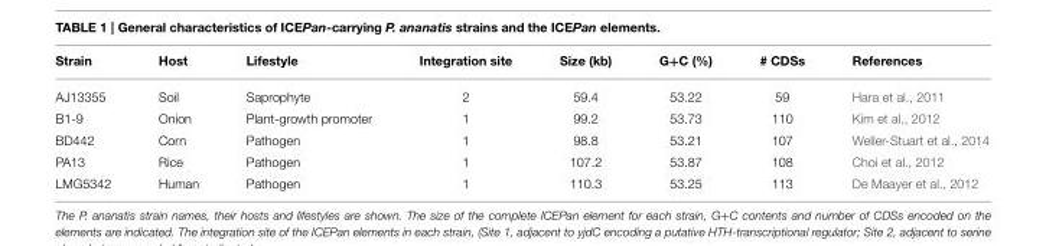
<table><thead><tr><td>Strain</td><td>Host</td><td>Lifestyle</td><td>Integration site</td><td>Size (kb)</td><td>G+C (%)</td><td># CDSs</td><td>References</td></tr></thead><tbody><tr><td>AJ13355</td><td>Soil</td><td>Saprophyte</td><td>2</td><td>59.4</td><td>53.22</td><td>59</td><td>Hara et al., 2011</td></tr><tr><td>B1-9</td><td>Onion</td><td>Plant-growth promoter</td><td>1</td><td>99.2</td><td>53.73</td><td>110</td><td>Kim et al., 2012</td></tr><tr><td>BD442</td><td>Corn</td><td>Pathogen</td><td>1</td><td>98.8</td><td>53.21</td><td>107</td><td>Weller-Stuart et al., 2014</td></tr><tr><td>PA13</td><td>Rice</td><td>Pathogen</td><td>1</td><td>107.2</td><td>53.87</td><td>108</td><td>Choi et al., 2012</td></tr><tr><td>LMG5342</td><td>Human</td><td>Pathogen</td><td>1</td><td>110.3</td><td>53.25</td><td>113</td><td>De Maayer et al., 2012</td></tr></tbody></table>